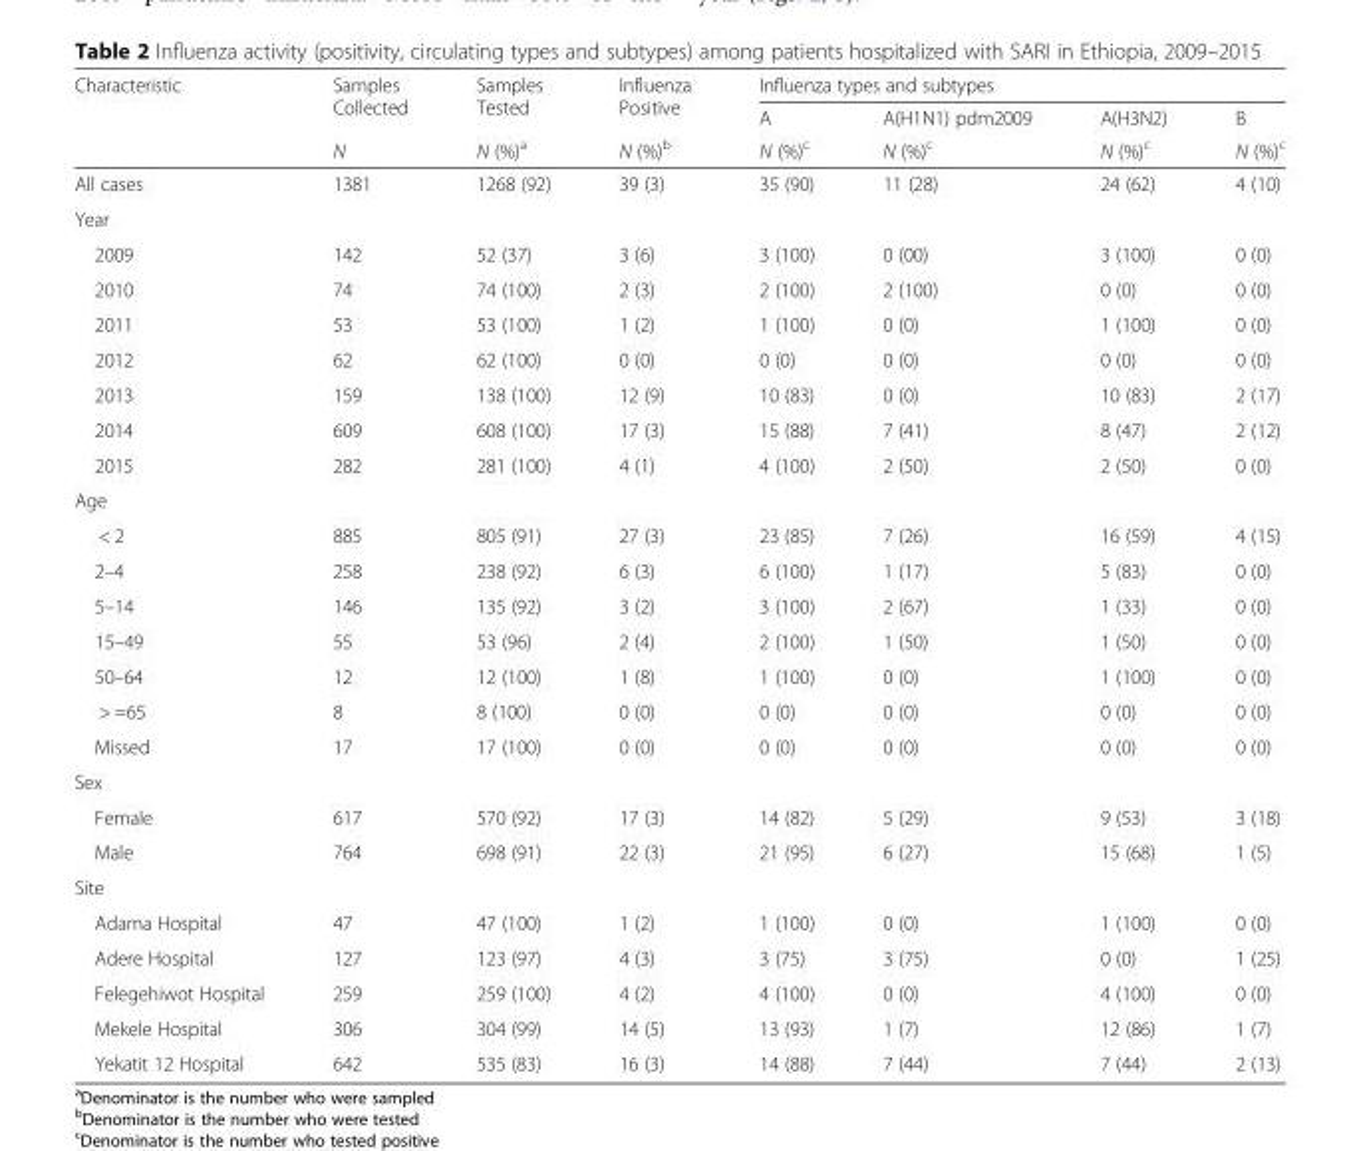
<table><thead><tr><td rowspan="3">Characteristic</td><td rowspan="3">Samples Collected N</td><td rowspan="3">Samples Tested N (%)<sup>a</sup></td><td rowspan="3">Influenza Positive N (%)<sup>b</sup></td><td colspan="4">Influenza types and subtypes</td></tr><tr><td rowspan="2">A N (%)<sup>c</sup></td><td rowspan="2">A(H1N1) pdm2009 N (%)<sup>c</sup></td><td rowspan="2">A(H3N2) N (%)<sup>c</sup></td><td rowspan="2">B N (%)<sup>c</sup></td></tr><tr></tr></thead><tbody><tr><td>All cases</td><td>1381</td><td>1268 (92)</td><td>39 (3)</td><td>35 (90)</td><td>11 (28)</td><td>24 (62)</td><td>4 (10)</td></tr><tr><td colspan="8">Year</td></tr><tr><td>2009</td><td>142</td><td>52 (37)</td><td>3 (6)</td><td>3 (100)</td><td>0 (00)</td><td>3 (100)</td><td>0 (0)</td></tr><tr><td>2010</td><td>74</td><td>74 (100)</td><td>2 (3)</td><td>2 (100)</td><td>2 (100)</td><td>0 (0)</td><td>0 (0)</td></tr><tr><td>2011</td><td>53</td><td>53 (100)</td><td>1 (2)</td><td>1 (100)</td><td>0 (0)</td><td>1 (100)</td><td>0 (0)</td></tr><tr><td>2012</td><td>62</td><td>62 (100)</td><td>0 (0)</td><td>0 (0)</td><td>0 (0)</td><td>0 (0)</td><td>0 (0)</td></tr><tr><td>2013</td><td>159</td><td>138 (100)</td><td>12 (9)</td><td>10 (83)</td><td>0 (0)</td><td>10 (83)</td><td>2 (17)</td></tr><tr><td>2014</td><td>609</td><td>608 (100)</td><td>17 (3)</td><td>15 (88)</td><td>7 (41)</td><td>8 (47)</td><td>2 (12)</td></tr><tr><td>2015</td><td>282</td><td>281 (100)</td><td>4 (1)</td><td>4 (100)</td><td>2 (50)</td><td>2 (50)</td><td>0 (0)</td></tr><tr><td colspan="8">Age</td></tr><tr><td>&lt; 2</td><td>885</td><td>805 (91)</td><td>27 (3)</td><td>23 (85)</td><td>7 (26)</td><td>16 (59)</td><td>4 (15)</td></tr><tr><td>2–4</td><td>258</td><td>238 (92)</td><td>6 (3)</td><td>6 (100)</td><td>1 (17)</td><td>5 (83)</td><td>0 (0)</td></tr><tr><td>5–14</td><td>146</td><td>135 (92)</td><td>3 (2)</td><td>3 (100)</td><td>2 (67)</td><td>1 (33)</td><td>0 (0)</td></tr><tr><td>15–49</td><td>55</td><td>53 (96)</td><td>2 (4)</td><td>2 (100)</td><td>1 (50)</td><td>1 (50)</td><td>0 (0)</td></tr><tr><td>50–64</td><td>12</td><td>12 (100)</td><td>1 (8)</td><td>1 (100)</td><td>0 (0)</td><td>1 (100)</td><td>0 (0)</td></tr><tr><td>&gt; =65</td><td>8</td><td>8 (100)</td><td>0 (0)</td><td>0 (0)</td><td>0 (0)</td><td>0 (0)</td><td>0 (0)</td></tr><tr><td>Missed</td><td>17</td><td>17 (100)</td><td>0 (0)</td><td>0 (0)</td><td>0 (0)</td><td>0 (0)</td><td>0 (0)</td></tr><tr><td colspan="8">Sex</td></tr><tr><td>Female</td><td>617</td><td>570 (92)</td><td>17 (3)</td><td>14 (82)</td><td>5 (29)</td><td>9 (53)</td><td>3 (18)</td></tr><tr><td>Male</td><td>764</td><td>698 (91)</td><td>22 (3)</td><td>21 (95)</td><td>6 (27)</td><td>15 (68)</td><td>1 (5)</td></tr><tr><td colspan="8">Site</td></tr><tr><td>Adama Hospital</td><td>47</td><td>47 (100)</td><td>1 (2)</td><td>1 (100)</td><td>0 (0)</td><td>1 (100)</td><td>0 (0)</td></tr><tr><td>Adere Hospital</td><td>127</td><td>123 (97)</td><td>4 (3)</td><td>3 (75)</td><td>3 (75)</td><td>0 (0)</td><td>1 (25)</td></tr><tr><td>Felegehiwot Hospital</td><td>259</td><td>259 (100)</td><td>4 (2)</td><td>4 (100)</td><td>0 (0)</td><td>4 (100)</td><td>0 (0)</td></tr><tr><td>Mekele Hospital</td><td>306</td><td>304 (99)</td><td>14 (5)</td><td>13 (93)</td><td>1 (7)</td><td>12 (86)</td><td>1 (7)</td></tr><tr><td>Yekatit 12 Hospital</td><td>642</td><td>535 (83)</td><td>16 (3)</td><td>14 (88)</td><td>7 (44)</td><td>7 (44)</td><td>2 (13)</td></tr></tbody></table>